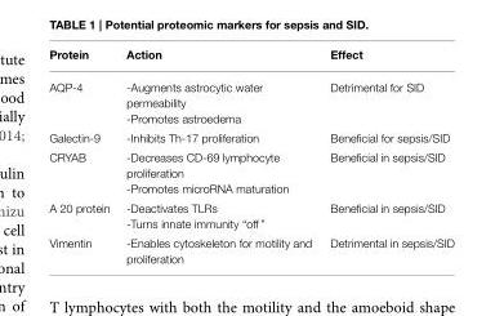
<table><thead><tr><td>Protein</td><td>Action</td><td>Effect</td></tr></thead><tbody><tr><td>AQP-4</td><td>-Augments astrocytic water permeability -Promotes astroedema</td><td>Detrimental for SID</td></tr><tr><td>Galectin-9</td><td>-Inhibits Th-17 proliferation</td><td>Beneficial for sepsis/SID</td></tr><tr><td>CRYAB</td><td>-Decreases CD-69 lymphocyte proliferation -Promotes microRNA maturation</td><td>Beneficial in sepsis/SID</td></tr><tr><td>A 20 protein</td><td>-Deactivates TLRs -Turns innate immunity “off ”</td><td>Beneficial in sepsis/SID</td></tr><tr><td>Vimentin</td><td>-Enables cytoskeleton for motility and proliferation</td><td>Detrimental in sepsis/SID</td></tr></tbody></table>